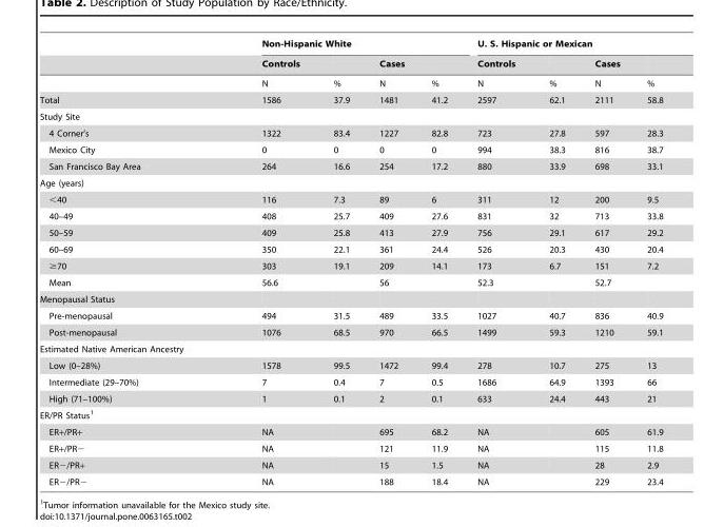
<table><thead><tr><td rowspan="2"></td><td colspan="4">Non-Hispanic White</td><td colspan="4">U. S. Hispanic or Mexican</td></tr><tr><td>Controls</td><td></td><td>Cases</td><td></td><td>Controls</td><td></td><td>Cases</td><td></td></tr></thead><tbody><tr><td></td><td>N</td><td>%</td><td>N</td><td>%</td><td>N</td><td>%</td><td>N</td><td>%</td></tr><tr><td>Total</td><td>1586</td><td>37.9</td><td>1481</td><td>41.2</td><td>2597</td><td>62.1</td><td>2111</td><td>58.8</td></tr><tr><td colspan="9">Study Site</td></tr><tr><td>4 Corner’s</td><td>1322</td><td>83.4</td><td>1227</td><td>82.8</td><td>723</td><td>27.8</td><td>597</td><td>28.3</td></tr><tr><td>Mexico City</td><td>0</td><td>0</td><td>0</td><td>0</td><td>994</td><td>38.3</td><td>816</td><td>38.7</td></tr><tr><td>San Francisco Bay Area</td><td>264</td><td>16.6</td><td>254</td><td>17.2</td><td>880</td><td>33.9</td><td>698</td><td>33.1</td></tr><tr><td colspan="9">Age (years)</td></tr><tr><td>&lt;40</td><td>116</td><td>7.3</td><td>89</td><td>6</td><td>311</td><td>12</td><td>200</td><td>9.5</td></tr><tr><td>40–49</td><td>408</td><td>25.7</td><td>409</td><td>27.6</td><td>831</td><td>32</td><td>713</td><td>33.8</td></tr><tr><td>50–59</td><td>409</td><td>25.8</td><td>413</td><td>27.9</td><td>756</td><td>29.1</td><td>617</td><td>29.2</td></tr><tr><td>60–69</td><td>350</td><td>22.1</td><td>361</td><td>24.4</td><td>526</td><td>20.3</td><td>430</td><td>20.4</td></tr><tr><td>≥70</td><td>303</td><td>19.1</td><td>209</td><td>14.1</td><td>173</td><td>6.7</td><td>151</td><td>7.2</td></tr><tr><td>Mean</td><td>56.6</td><td></td><td>56</td><td></td><td>52.3</td><td></td><td>52.7</td><td></td></tr><tr><td colspan="9">Menopausal Status</td></tr><tr><td>Pre-menopausal</td><td>494</td><td>31.5</td><td>489</td><td>33.5</td><td>1027</td><td>40.7</td><td>836</td><td>40.9</td></tr><tr><td>Post-menopausal</td><td>1076</td><td>68.5</td><td>970</td><td>66.5</td><td>1499</td><td>59.3</td><td>1210</td><td>59.1</td></tr><tr><td colspan="9">Estimated Native American Ancestry</td></tr><tr><td>Low (0–28%)</td><td>1578</td><td>99.5</td><td>1472</td><td>99.4</td><td>278</td><td>10.7</td><td>275</td><td>13</td></tr><tr><td>Intermediate (29–70%)</td><td>7</td><td>0.4</td><td>7</td><td>0.5</td><td>1686</td><td>64.9</td><td>1393</td><td>66</td></tr><tr><td>High (71–100%)</td><td>1</td><td>0.1</td><td>2</td><td>0.1</td><td>633</td><td>24.4</td><td>443</td><td>21</td></tr><tr><td colspan="9">ER/PR Status<sup>1</sup></td></tr><tr><td>ER+/PR+</td><td>NA</td><td></td><td>695</td><td>68.2</td><td>NA</td><td></td><td>605</td><td>61.9</td></tr><tr><td>ER+/PR−</td><td>NA</td><td></td><td>121</td><td>11.9</td><td>NA</td><td></td><td>115</td><td>11.8</td></tr><tr><td>ER−/PR+</td><td>NA</td><td></td><td>15</td><td>1.5</td><td>NA</td><td></td><td>28</td><td>2.9</td></tr><tr><td>ER−/PR−</td><td>NA</td><td></td><td>188</td><td>18.4</td><td>NA</td><td></td><td>229</td><td>23.4</td></tr></tbody></table>